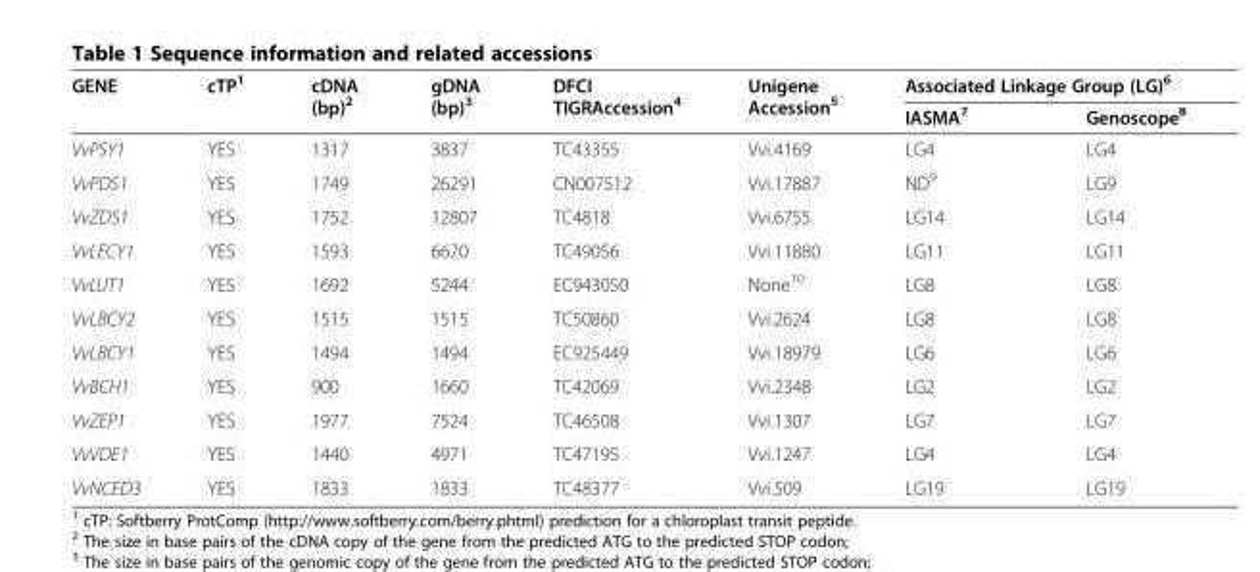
<table><thead><tr><td rowspan="2">GENE</td><td rowspan="2">cTP<sup>1</sup></td><td rowspan="2">cDNA (bp)<sup>2</sup></td><td rowspan="2">gDNA (bp)<sup>3</sup></td><td rowspan="2">DFCI TIGRAccession<sup>4</sup></td><td rowspan="2">Unigene Accession<sup>5</sup></td><td colspan="2">Associated Linkage Group (LG)<sup>6</sup></td></tr><tr><td>IASMA<sup>7</sup></td><td>Genoscope<sup>8</sup></td></tr></thead><tbody><tr><td>VvPSY1</td><td>YES</td><td>1317</td><td>3837</td><td>TC43355</td><td>Vvi.4169</td><td>LG4</td><td>LG4</td></tr><tr><td>VvPDS1</td><td>YES</td><td>1749</td><td>26291</td><td>CN007512</td><td>Vvi.17887</td><td>ND<sup>9</sup></td><td>LG9</td></tr><tr><td>VvZDS1</td><td>YES</td><td>1752</td><td>12807</td><td>TC4818</td><td>Vvi.6755</td><td>LG14</td><td>LG14</td></tr><tr><td>VvLECY1</td><td>YES</td><td>1593</td><td>6670</td><td>TC49056</td><td>Vvi.11880</td><td>LG11</td><td>LG11</td></tr><tr><td>VvLUT1</td><td>YES</td><td>1692</td><td>5244</td><td>EC943050</td><td>None<sup>10</sup></td><td>LG8</td><td>LG8</td></tr><tr><td>VvLBCY2</td><td>YES</td><td>1515</td><td>1515</td><td>TC50860</td><td>Vvi.2624</td><td>LG8</td><td>LG8</td></tr><tr><td>VvLBCY1</td><td>YES</td><td>1494</td><td>1494</td><td>EC925449</td><td>Vvi.18979</td><td>LG6</td><td>LG6</td></tr><tr><td>VvBCH1</td><td>YES</td><td>900</td><td>1660</td><td>TC42069</td><td>Vvi.2348</td><td>LG2</td><td>LG2</td></tr><tr><td>VvZEP1</td><td>YES</td><td>1977</td><td>7524</td><td>TC46508</td><td>Vvi.1307</td><td>LG7</td><td>LG7</td></tr><tr><td>VvVDE1</td><td>YES</td><td>1440</td><td>4971</td><td>TC47195</td><td>Vvi.1247</td><td>LG4</td><td>LG4</td></tr><tr><td>VvNCED3</td><td>YES</td><td>1833</td><td>1833</td><td>TC48377</td><td>Vvi.509</td><td>LG19</td><td>LG19</td></tr></tbody></table>